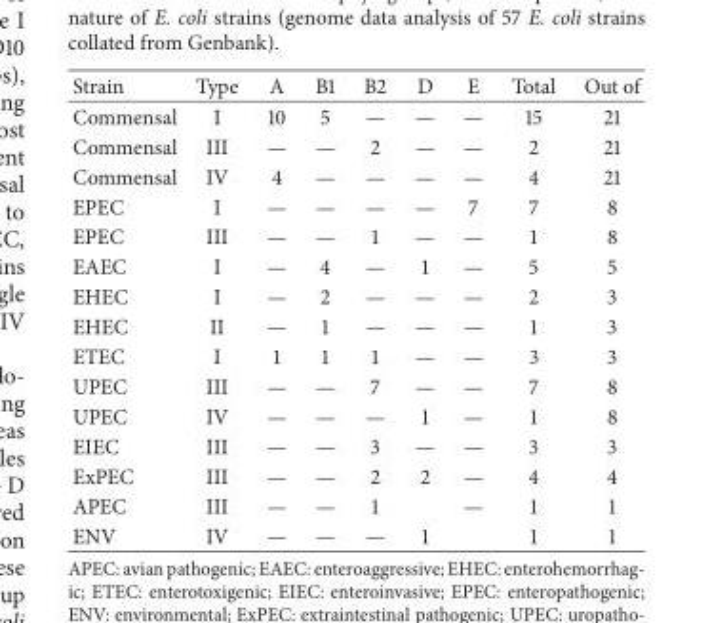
<table><thead><tr><td>Strain</td><td>Type</td><td>A</td><td>B1</td><td>B2</td><td>D</td><td>E</td><td>Total</td><td>Out of</td></tr></thead><tbody><tr><td>Commensal</td><td>I</td><td>10</td><td>5</td><td>—</td><td>—</td><td>—</td><td>15</td><td>21</td></tr><tr><td>Commensal</td><td>III</td><td>—</td><td>—</td><td>2</td><td>—</td><td>—</td><td>2</td><td>21</td></tr><tr><td>Commensal</td><td>IV</td><td>4</td><td>—</td><td>—</td><td>—</td><td>—</td><td>4</td><td>21</td></tr><tr><td>EPEC</td><td>I</td><td>—</td><td>—</td><td>—</td><td>—</td><td>7</td><td>7</td><td>8</td></tr><tr><td>EPEC</td><td>III</td><td>—</td><td>—</td><td>1</td><td>—</td><td>—</td><td>1</td><td>8</td></tr><tr><td>EAEC</td><td>I</td><td>—</td><td>4</td><td>—</td><td>1</td><td>—</td><td>5</td><td>5</td></tr><tr><td>EHEC</td><td>I</td><td>—</td><td>2</td><td>—</td><td>—</td><td>—</td><td>2</td><td>3</td></tr><tr><td>EHEC</td><td>II</td><td>—</td><td>1</td><td>—</td><td>—</td><td>—</td><td>1</td><td>3</td></tr><tr><td>ETEC</td><td>I</td><td>1</td><td>1</td><td>1</td><td>—</td><td>—</td><td>3</td><td>3</td></tr><tr><td>UPEC</td><td>III</td><td>—</td><td>—</td><td>7</td><td>—</td><td>—</td><td>7</td><td>8</td></tr><tr><td>UPEC</td><td>IV</td><td>—</td><td>—</td><td>—</td><td>1</td><td>—</td><td>1</td><td>8</td></tr><tr><td>EIEC</td><td>III</td><td>—</td><td>—</td><td>3</td><td>—</td><td>—</td><td>3</td><td>3</td></tr><tr><td>ExPEC</td><td>III</td><td>—</td><td>—</td><td>2</td><td>2</td><td>—</td><td>4</td><td>4</td></tr><tr><td>APEC</td><td>III</td><td>—</td><td>—</td><td>1</td><td></td><td>—</td><td>1</td><td>1</td></tr><tr><td>ENV</td><td>IV</td><td>—</td><td>—</td><td>—</td><td>1</td><td></td><td>1</td><td>1</td></tr></tbody></table>